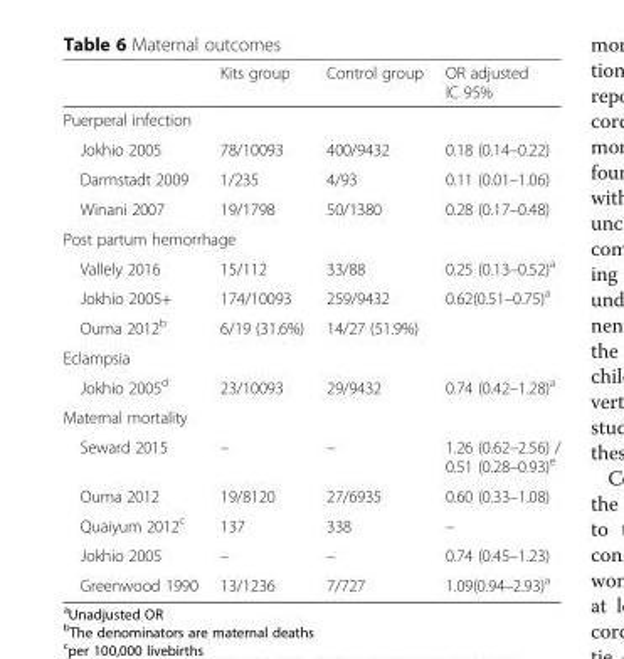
<table><thead><tr><td></td><td>Kits group</td><td>Control group</td><td>OR adjusted IC 95%</td></tr></thead><tbody><tr><td colspan="4">Puerperal infection</td></tr><tr><td>Jokhio 2005</td><td>78/10093</td><td>400/9432</td><td>0.18 (0.14–0.22)</td></tr><tr><td>Darmstadt 2009</td><td>1/235</td><td>4/93</td><td>0.11 (0.01–1.06)</td></tr><tr><td>Winani 2007</td><td>19/1798</td><td>50/1380</td><td>0.28 (0.17–0.48)</td></tr><tr><td colspan="4">Post partum hemorrhage</td></tr><tr><td>Vallely 2016</td><td>15/112</td><td>33/88</td><td>0.25 (0.13–0.52)<sup>a</sup></td></tr><tr><td>Jokhio 2005+</td><td>174/10093</td><td>259/9432</td><td>0.62(0.51–0.75)<sup>a</sup></td></tr><tr><td>Ouma 2012<sup>b</sup></td><td>6/19 (31.6%)</td><td>14/27 (51.9%)</td><td></td></tr><tr><td colspan="4">Eclampsia</td></tr><tr><td>Jokhio 2005<sup>d</sup></td><td>23/10093</td><td>29/9432</td><td>0.74 (0.42–1.28)<sup>a</sup></td></tr><tr><td colspan="4">Maternal mortality</td></tr><tr><td>Seward 2015</td><td>–</td><td>–</td><td>1.26 (0.62–2.56) / 0.51 (0.28–0.93)<sup>e</sup></td></tr><tr><td>Ouma 2012</td><td>19/8120</td><td>27/6935</td><td>0.60 (0.33–1.08)</td></tr><tr><td>Quaiyum 2012<sup>c</sup></td><td>137</td><td>338</td><td>–</td></tr><tr><td>Jokhio 2005</td><td>–</td><td>–</td><td>0.74 (0.45–1.23)</td></tr><tr><td>Greenwood 1990</td><td>13/1236</td><td>7/727</td><td>1.09(0.94–2.93)<sup>a</sup></td></tr></tbody></table>